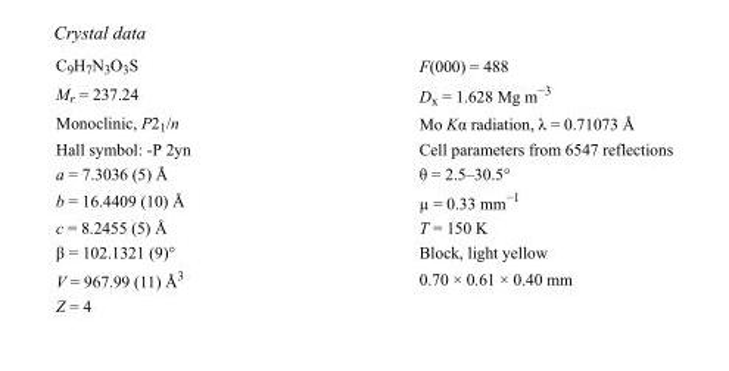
<table><tbody><tr><td>C<sub>9</sub>H<sub>7</sub>N<sub>3</sub>O<sub>3</sub>S</td><td>F(000) = 488</td></tr><tr><td>M<sub>r</sub> = 237.24</td><td>D<sub>x</sub> = 1.628 Mg m<sup>−3</sup></td></tr><tr><td>Monoclinic, P2<sub>1</sub>/n</td><td>Mo Kα radiation, λ = 0.71073 Å</td></tr><tr><td>Hall symbol: -P 2yn</td><td>Cell parameters from 6547 reflections</td></tr><tr><td>a = 7.3036 (5) Å</td><td>θ = 2.5–30.5°</td></tr><tr><td>b = 16.4409 (10) Å</td><td>µ = 0.33 mm<sup>−1</sup></td></tr><tr><td>c = 8.2455 (5) Å</td><td>T = 150 K</td></tr><tr><td>β = 102.1321 (9)°</td><td>Block, light yellow</td></tr><tr><td>V = 967.99 (11) Å<sup>3</sup></td><td>0.70 × 0.61 × 0.40 mm</td></tr><tr><td>Z = 4</td><td></td></tr></tbody></table>